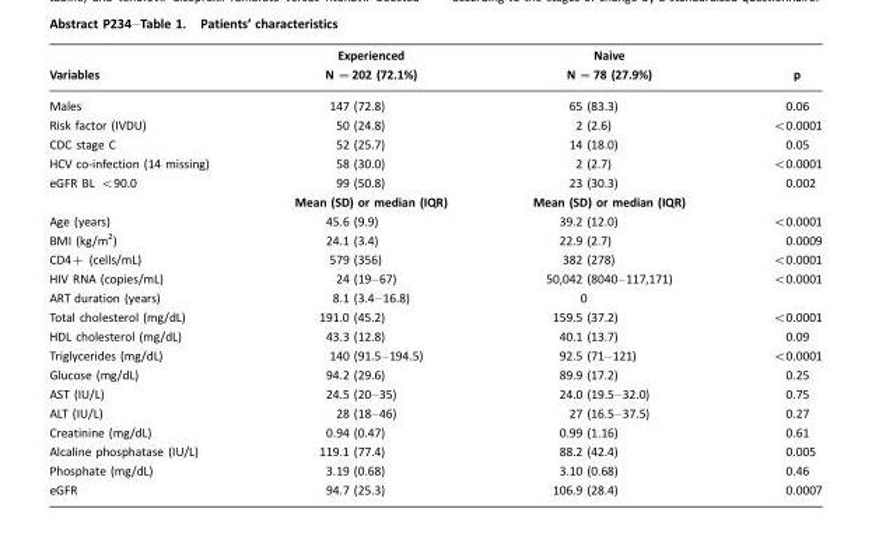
<table><thead><tr><td rowspan="2">Variables</td><td rowspan="2">Experienced N =202 (72.1%)</td><td rowspan="2">Naive N =78 (27.9%)</td><td rowspan="2">p</td></tr><tr></tr></thead><tbody><tr><td>Males</td><td>147 (72.8)</td><td>65 (83.3)</td><td>0.06</td></tr><tr><td>Risk factor (IVDU)</td><td>50 (24.8)</td><td>2 (2.6)</td><td>&lt;0.0001</td></tr><tr><td>CDC stage C</td><td>52 (25.7)</td><td>14 (18.0)</td><td>0.05</td></tr><tr><td>HCV co-infection (14 missing)</td><td>58 (30.0)</td><td>2 (2.7)</td><td>&lt;0.0001</td></tr><tr><td rowspan="2">eGFR BL &lt;90.0</td><td>99 (50.8)</td><td>23 (30.3)</td><td>0.002</td></tr><tr><td>Mean (SD) or median (IQR)</td><td>Mean (SD) or median (IQR)</td><td></td></tr><tr><td>Age (years)</td><td>45.6 (9.9)</td><td>39.2 (12.0)</td><td>&lt;0.0001</td></tr><tr><td>BMI (kg/m2)</td><td>24.1 (3.4)</td><td>22.9 (2.7)</td><td>0.0009</td></tr><tr><td>CD4+ (cells/mL)</td><td>579 (356)</td><td>382 (278)</td><td>&lt;0.0001</td></tr><tr><td>HIV RNA (copies/mL)</td><td>24 (19–67)</td><td>50,042 (8040–117,171)</td><td>&lt;0.0001</td></tr><tr><td>ART duration (years)</td><td>8.1 (3.4–16.8)</td><td>0</td><td></td></tr><tr><td>Total cholesterol (mg/dL)</td><td>191.0 (45.2)</td><td>159.5 (37.2)</td><td>&lt;0.0001</td></tr><tr><td>HDL cholesterol (mg/dL)</td><td>43.3 (12.8)</td><td>40.1 (13.7)</td><td>0.09</td></tr><tr><td>Triglycerides (mg/dL)</td><td>140 (91.5–194.5)</td><td>92.5 (71–121)</td><td>&lt;0.0001</td></tr><tr><td>Glucose (mg/dL)</td><td>94.2 (29.6)</td><td>89.9 (17.2)</td><td>0.25</td></tr><tr><td>AST (IU/L)</td><td>24.5 (20–35)</td><td>24.0 (19.5–32.0)</td><td>0.75</td></tr><tr><td>ALT (IU/L)</td><td>28 (18–46)</td><td>27 (16.5–37.5)</td><td>0.27</td></tr><tr><td>Creatinine (mg/dL)</td><td>0.94 (0.47)</td><td>0.99 (1.16)</td><td>0.61</td></tr><tr><td>Alcaline phosphatase (IU/L)</td><td>119.1 (77.4)</td><td>88.2 (42.4)</td><td>0.005</td></tr><tr><td>Phosphate (mg/dL)</td><td>3.19 (0.68)</td><td>3.10 (0.68)</td><td>0.46</td></tr><tr><td>eGFR</td><td>94.7 (25.3)</td><td>106.9 (28.4)</td><td>0.0007</td></tr></tbody></table>